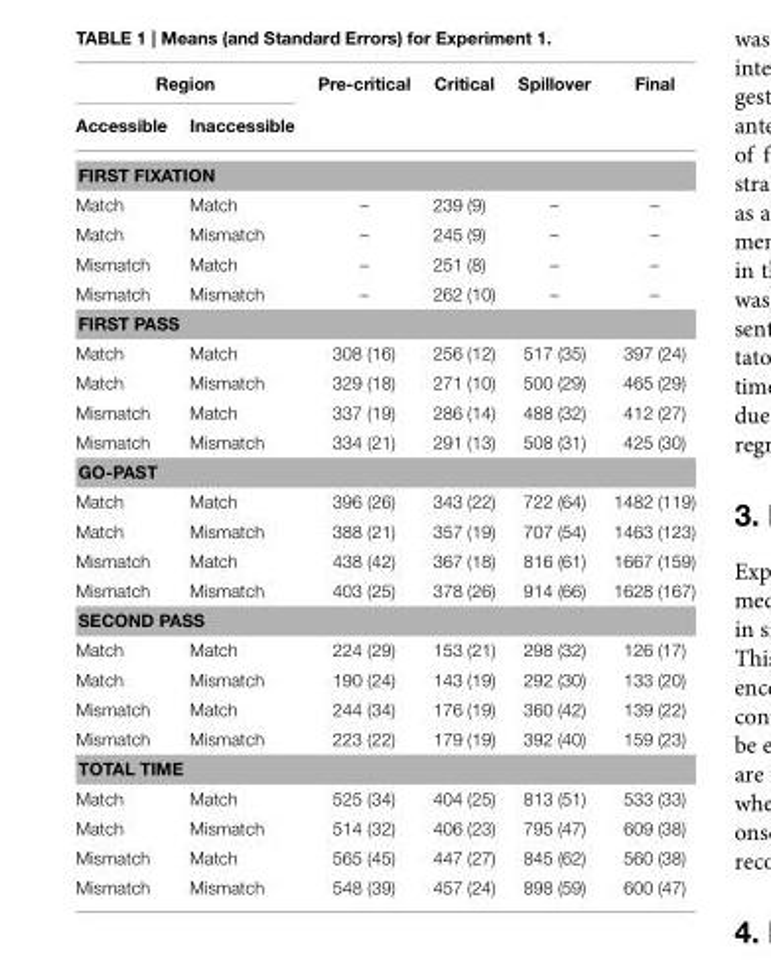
<table><thead><tr><td colspan="2">Region</td><td rowspan="2">Pre-critical</td><td rowspan="2">Critical</td><td rowspan="2">Spillover</td><td rowspan="2">Final</td></tr><tr><td>Accessible</td><td>Inaccessible</td></tr></thead><tbody><tr><td colspan="6">FIRST FIXATION</td></tr><tr><td>Match</td><td>Match</td><td>–</td><td>239 (9)</td><td>–</td><td>–</td></tr><tr><td>Match</td><td>Mismatch</td><td>–</td><td>245 (9)</td><td>–</td><td>–</td></tr><tr><td>Mismatch</td><td>Match</td><td>–</td><td>251 (8)</td><td>–</td><td>–</td></tr><tr><td>Mismatch</td><td>Mismatch</td><td>–</td><td>262 (10)</td><td>–</td><td>–</td></tr><tr><td colspan="6">FIRST PASS</td></tr><tr><td>Match</td><td>Match</td><td>308 (16)</td><td>256 (12)</td><td>517 (35)</td><td>397 (24)</td></tr><tr><td>Match</td><td>Mismatch</td><td>329 (18)</td><td>271 (10)</td><td>500 (29)</td><td>465 (29)</td></tr><tr><td>Mismatch</td><td>Match</td><td>337 (19)</td><td>286 (14)</td><td>488 (32)</td><td>412 (27)</td></tr><tr><td>Mismatch</td><td>Mismatch</td><td>334 (21)</td><td>291 (13)</td><td>508 (31)</td><td>425 (30)</td></tr><tr><td colspan="6">GO-PAST</td></tr><tr><td>Match</td><td>Match</td><td>396 (26)</td><td>343 (22)</td><td>722 (64)</td><td>1482 (119)</td></tr><tr><td>Match</td><td>Mismatch</td><td>388 (21)</td><td>357 (19)</td><td>707 (54)</td><td>1463 (123)</td></tr><tr><td>Mismatch</td><td>Match</td><td>438 (42)</td><td>367 (18)</td><td>816 (61)</td><td>1667 (159)</td></tr><tr><td>Mismatch</td><td>Mismatch</td><td>403 (25)</td><td>378 (26)</td><td>914 (66)</td><td>1628 (167)</td></tr><tr><td colspan="6">SECOND PASS</td></tr><tr><td>Match</td><td>Match</td><td>224 (29)</td><td>153 (21)</td><td>298 (32)</td><td>126 (17)</td></tr><tr><td>Match</td><td>Mismatch</td><td>190 (24)</td><td>143 (19)</td><td>292 (30)</td><td>133 (20)</td></tr><tr><td>Mismatch</td><td>Match</td><td>244 (34)</td><td>176 (19)</td><td>360 (42)</td><td>139 (22)</td></tr><tr><td>Mismatch</td><td>Mismatch</td><td>223 (22)</td><td>179 (19)</td><td>392 (40)</td><td>159 (23)</td></tr><tr><td colspan="6">TOTAL TIME</td></tr><tr><td>Match</td><td>Match</td><td>525 (34)</td><td>404 (25)</td><td>813 (51)</td><td>533 (33)</td></tr><tr><td>Match</td><td>Mismatch</td><td>514 (32)</td><td>406 (23)</td><td>795 (47)</td><td>609 (38)</td></tr><tr><td>Mismatch</td><td>Match</td><td>565 (45)</td><td>447 (27)</td><td>845 (62)</td><td>560 (38)</td></tr><tr><td>Mismatch</td><td>Mismatch</td><td>548 (39)</td><td>457 (24)</td><td>898 (59)</td><td>600 (47)</td></tr></tbody></table>